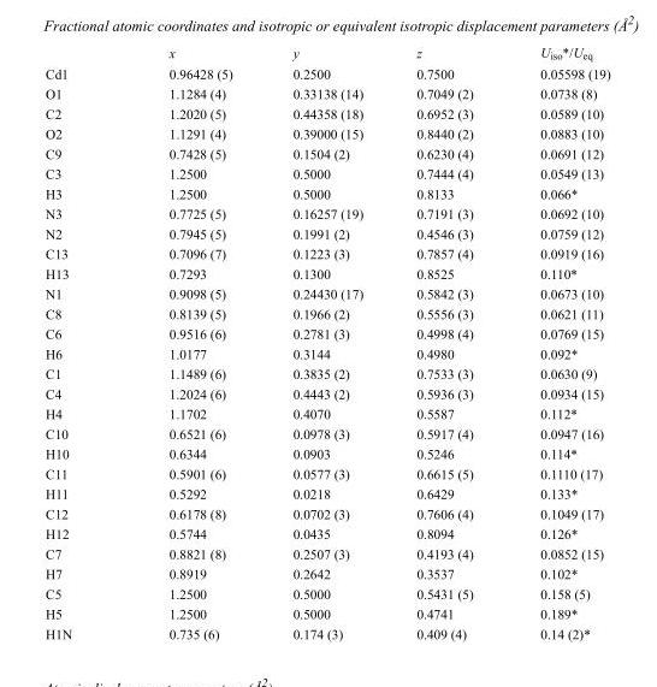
<table><thead><tr><td></td><td>x</td><td>y</td><td>z</td><td>U<sub>iso</sub>*/U<sub>eq</sub></td></tr></thead><tbody><tr><td>Cd1</td><td>0.96428 (5)</td><td>0.2500</td><td>0.7500</td><td>0.05598 (19)</td></tr><tr><td>O1</td><td>1.1284 (4)</td><td>0.33138 (14)</td><td>0.7049 (2)</td><td>0.0738 (8)</td></tr><tr><td>C2</td><td>1.2020 (5)</td><td>0.44358 (18)</td><td>0.6952 (3)</td><td>0.0589 (10)</td></tr><tr><td>O2</td><td>1.1291 (4)</td><td>0.39000 (15)</td><td>0.8440 (2)</td><td>0.0883 (10)</td></tr><tr><td>C9</td><td>0.7428 (5)</td><td>0.1504 (2)</td><td>0.6230 (4)</td><td>0.0691 (12)</td></tr><tr><td>C3</td><td>1.2500</td><td>0.5000</td><td>0.7444 (4)</td><td>0.0549 (13)</td></tr><tr><td>H3</td><td>1.2500</td><td>0.5000</td><td>0.8133</td><td>0.066*</td></tr><tr><td>N3</td><td>0.7725 (5)</td><td>0.16257 (19)</td><td>0.7191 (3)</td><td>0.0692 (10)</td></tr><tr><td>N2</td><td>0.7945 (5)</td><td>0.1991 (2)</td><td>0.4546 (3)</td><td>0.0759 (12)</td></tr><tr><td>C13</td><td>0.7096 (7)</td><td>0.1223 (3)</td><td>0.7857 (4)</td><td>0.0919 (16)</td></tr><tr><td>H13</td><td>0.7293</td><td>0.1300</td><td>0.8525</td><td>0.110*</td></tr><tr><td>N1</td><td>0.9098 (5)</td><td>0.24430 (17)</td><td>0.5842 (3)</td><td>0.0673 (10)</td></tr><tr><td>C8</td><td>0.8139 (5)</td><td>0.1966 (2)</td><td>0.5556 (3)</td><td>0.0621 (11)</td></tr><tr><td>C6</td><td>0.9516 (6)</td><td>0.2781 (3)</td><td>0.4998 (4)</td><td>0.0769 (15)</td></tr><tr><td>H6</td><td>1.0177</td><td>0.3144</td><td>0.4980</td><td>0.092*</td></tr><tr><td>C1</td><td>1.1489 (6)</td><td>0.3835 (2)</td><td>0.7533 (3)</td><td>0.0630 (9)</td></tr><tr><td>C4</td><td>1.2024 (6)</td><td>0.4443 (2)</td><td>0.5936 (3)</td><td>0.0934 (15)</td></tr><tr><td>H4</td><td>1.1702</td><td>0.4070</td><td>0.5587</td><td>0.112*</td></tr><tr><td>C10</td><td>0.6521 (6)</td><td>0.0978 (3)</td><td>0.5917 (4)</td><td>0.0947 (16)</td></tr><tr><td>H10</td><td>0.6344</td><td>0.0903</td><td>0.5246</td><td>0.114*</td></tr><tr><td>C11</td><td>0.5901 (6)</td><td>0.0577 (3)</td><td>0.6615 (5)</td><td>0.1110 (17)</td></tr><tr><td>H11</td><td>0.5292</td><td>0.0218</td><td>0.6429</td><td>0.133*</td></tr><tr><td>C12</td><td>0.6178 (8)</td><td>0.0702 (3)</td><td>0.7606 (4)</td><td>0.1049 (17)</td></tr><tr><td>H12</td><td>0.5744</td><td>0.0435</td><td>0.8094</td><td>0.126*</td></tr><tr><td>C7</td><td>0.8821 (8)</td><td>0.2507 (3)</td><td>0.4193 (4)</td><td>0.0852 (15)</td></tr><tr><td>H7</td><td>0.8919</td><td>0.2642</td><td>0.3537</td><td>0.102*</td></tr><tr><td>C5</td><td>1.2500</td><td>0.5000</td><td>0.5431 (5)</td><td>0.158 (5)</td></tr><tr><td>H5</td><td>1.2500</td><td>0.5000</td><td>0.4741</td><td>0.189*</td></tr><tr><td>H1N</td><td>0.735 (6)</td><td>0.174 (3)</td><td>0.409 (4)</td><td>0.14 (2)*</td></tr></tbody></table>